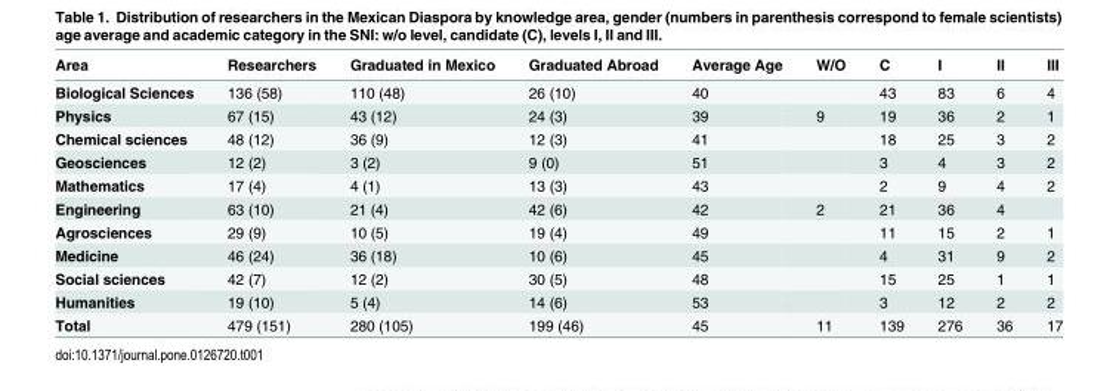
<table><thead><tr><td>Area</td><td>Researchers</td><td>Graduated in Mexico</td><td>Graduated Abroad</td><td>Average Age</td><td>W/O</td><td>C</td><td>I</td><td>II</td><td>III</td></tr></thead><tbody><tr><td>Biological Sciences</td><td>136 (58)</td><td>110 (48)</td><td>26 (10)</td><td>40</td><td></td><td>43</td><td>83</td><td>6</td><td>4</td></tr><tr><td>Physics</td><td>67 (15)</td><td>43 (12)</td><td>24 (3)</td><td>39</td><td>9</td><td>19</td><td>36</td><td>2</td><td>1</td></tr><tr><td>Chemical sciences</td><td>48 (12)</td><td>36 (9)</td><td>12 (3)</td><td>41</td><td></td><td>18</td><td>25</td><td>3</td><td>2</td></tr><tr><td>Geosciences</td><td>12 (2)</td><td>3 (2)</td><td>9 (0)</td><td>51</td><td></td><td>3</td><td>4</td><td>3</td><td>2</td></tr><tr><td>Mathematics</td><td>17 (4)</td><td>4 (1)</td><td>13 (3)</td><td>43</td><td></td><td>2</td><td>9</td><td>4</td><td>2</td></tr><tr><td>Engineering</td><td>63 (10)</td><td>21 (4)</td><td>42 (6)</td><td>42</td><td>2</td><td>21</td><td>36</td><td>4</td><td></td></tr><tr><td>Agrosciences</td><td>29 (9)</td><td>10 (5)</td><td>19 (4)</td><td>49</td><td></td><td>11</td><td>15</td><td>2</td><td>1</td></tr><tr><td>Medicine</td><td>46 (24)</td><td>36 (18)</td><td>10 (6)</td><td>45</td><td></td><td>4</td><td>31</td><td>9</td><td>2</td></tr><tr><td>Social sciences</td><td>42 (7)</td><td>12 (2)</td><td>30 (5)</td><td>48</td><td></td><td>15</td><td>25</td><td>1</td><td>1</td></tr><tr><td>Humanities</td><td>19 (10)</td><td>5 (4)</td><td>14 (6)</td><td>53</td><td></td><td>3</td><td>12</td><td>2</td><td>2</td></tr><tr><td>Total</td><td>479 (151)</td><td>280 (105)</td><td>199 (46)</td><td>45</td><td>11</td><td>139</td><td>276</td><td>36</td><td>17</td></tr></tbody></table>